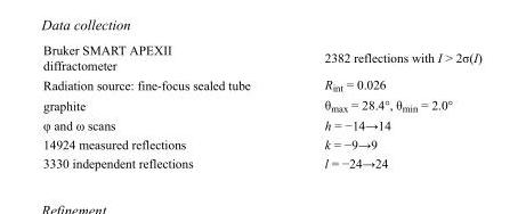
<table><tbody><tr><td>Bruker SMART APEXII diffractometer</td><td>2382 reflections with I &gt; 2σ(I)</td></tr><tr><td>Radiation source: fine-focus sealed tube</td><td>R<sub>int</sub> = 0.026</td></tr><tr><td>graphite</td><td>θ<sub>max</sub> = 28.4°, θ<sub>min</sub> = 2.0°</td></tr><tr><td>φ and ω scans</td><td>h = −14→14</td></tr><tr><td>14924 measured reflections</td><td>k = −9→9</td></tr><tr><td>3330 independent reflections</td><td>l = −24→24</td></tr></tbody></table>